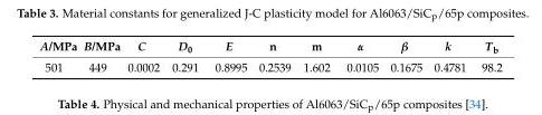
<table><thead><tr><td>A/MPa</td><td>B/MPa</td><td>C</td><td>D<sub>0</sub></td><td>E</td><td>n</td><td>m</td><td>α</td><td>β</td><td>k</td><td>T<sub>b</sub></td></tr></thead><tbody><tr><td>501</td><td>449</td><td>0.0002</td><td>0.291</td><td>0.8995</td><td>0.2539</td><td>1.602</td><td>0.0105</td><td>0.1675</td><td>0.4781</td><td>98.2</td></tr></tbody></table>